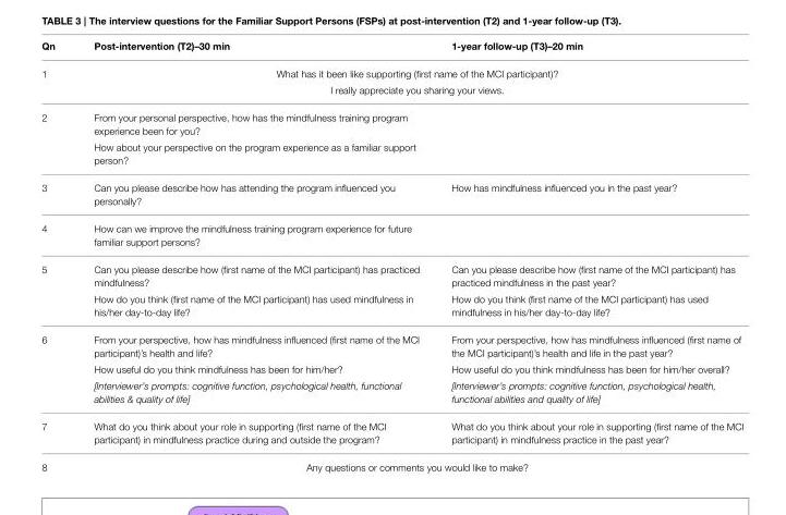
<table><thead><tr><td>Qn</td><td>Post-intervention (T2)–30 min</td><td>1-year follow-up (T3)–20 min</td></tr></thead><tbody><tr><td rowspan="2">1</td><td colspan="2">What has it been like supporting (first name of the MCI participant)?</td></tr><tr><td colspan="2">I really appreciate you sharing your views.</td></tr><tr><td rowspan="2">2</td><td>From your personal perspective, how has the mindfulness training program experience been for you?</td><td></td></tr><tr><td>How about your perspective on the program experience as a familiar support person?</td><td></td></tr><tr><td>3</td><td>Can you please describe how has attending the program influenced you personally?</td><td>How has mindfulness influenced you in the past year?</td></tr><tr><td>4</td><td>How can we improve the mindfulness training program experience for future familiar support persons?</td><td></td></tr><tr><td rowspan="2">5</td><td>Can you please describe how (first name of the MCI participant) has practiced mindfulness?</td><td>Can you please describe how (first name of the MCI participant) has practiced mindfulness in the past year?</td></tr><tr><td>How do you think (first name of the MCI participant) has used mindfulness in his/her day-to-day life?</td><td>How do you think (first name of the MCI participant) has used mindfulness in his/her day-to-day life?</td></tr><tr><td rowspan="3">6</td><td>From your perspective, how has mindfulness influenced (first name of the MCI participant)’s health and life?</td><td>From your perspective, how has mindfulness influenced (first name of the MCI participant)’s health and life in the past year?</td></tr><tr><td>How useful do you think mindfulness has been for him/her?</td><td>How useful do you think mindfulness has been for him/her overall?</td></tr><tr><td>[Interviewer’s prompts: cognitive function, psychological health, functional abilities &amp; quality of life]</td><td>[Interviewer’s prompts: cognitive function, psychological health, functional abilities and quality of life]</td></tr><tr><td>7</td><td>What do you think about your role in supporting (first name of the MCI participant) in mindfulness practice during and outside the program?</td><td>What do you think about your role in supporting (first name of the MCI participant) in mindfulness practice in the past year?</td></tr><tr><td>8</td><td colspan="2">Any questions or comments you would like to make?</td></tr></tbody></table>